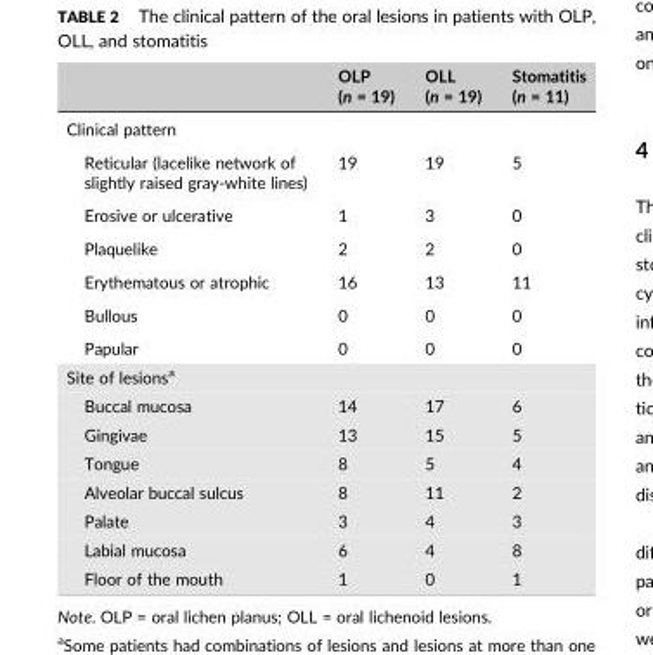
<table><thead><tr><td></td><td>OLP (n = 19)</td><td>OLL (n = 19)</td><td>Stomatitis (n = 11)</td></tr></thead><tbody><tr><td colspan="4">Clinical pattern</td></tr><tr><td>Reticular (lacelike network of slightly raised gray‐white lines)</td><td>19</td><td>19</td><td>5</td></tr><tr><td>Erosive or ulcerative</td><td>1</td><td>3</td><td>0</td></tr><tr><td>Plaquelike</td><td>2</td><td>2</td><td>0</td></tr><tr><td>Erythematous or atrophic</td><td>16</td><td>13</td><td>11</td></tr><tr><td>Bullous</td><td>0</td><td>0</td><td>0</td></tr><tr><td>Papular</td><td>0</td><td>0</td><td>0</td></tr><tr><td colspan="4">Site of lesions<sup>a</sup></td></tr><tr><td>Buccal mucosa</td><td>14</td><td>17</td><td>6</td></tr><tr><td>Gingivae</td><td>13</td><td>15</td><td>5</td></tr><tr><td>Tongue</td><td>8</td><td>5</td><td>4</td></tr><tr><td>Alveolar buccal sulcus</td><td>8</td><td>11</td><td>2</td></tr><tr><td>Palate</td><td>3</td><td>4</td><td>3</td></tr><tr><td>Labial mucosa</td><td>6</td><td>4</td><td>8</td></tr><tr><td>Floor of the mouth</td><td>1</td><td>0</td><td>1</td></tr></tbody></table>